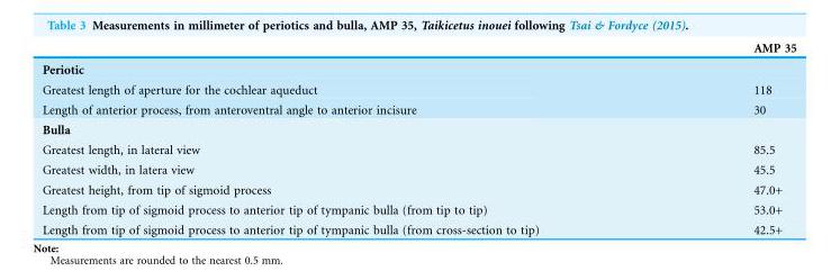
<table><thead><tr><td></td><td>AMP 35</td></tr></thead><tbody><tr><td colspan="2">Periotic</td></tr><tr><td>Greatest length of aperture for the cochlear aqueduct</td><td>118</td></tr><tr><td>Length of anterior process, from anteroventral angle to anterior incisure</td><td>30</td></tr><tr><td colspan="2">Bulla</td></tr><tr><td>Greatest length, in lateral view</td><td>85.5</td></tr><tr><td>Greatest width, in latera view</td><td>45.5</td></tr><tr><td>Greatest height, from tip of sigmoid process</td><td>47.0+</td></tr><tr><td>Length from tip of sigmoid process to anterior tip of tympanic bulla (from tip to tip)</td><td>53.0+</td></tr><tr><td>Length from tip of sigmoid process to anterior tip of tympanic bulla (from cross-section to tip)</td><td>42.5+</td></tr></tbody></table>